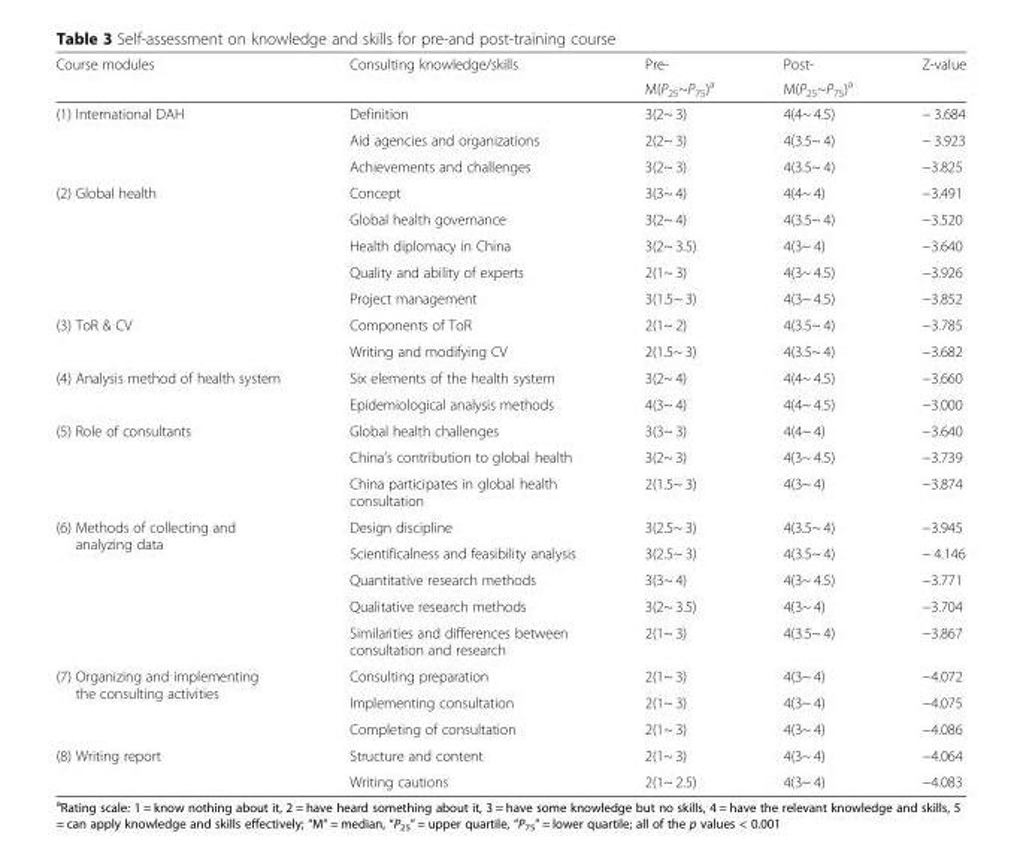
<table><thead><tr><td rowspan="2">Course modules</td><td rowspan="2">Consulting knowledge/skills</td><td rowspan="2">Pre- M(P<sub>25</sub>~P<sub>75</sub>)<sup>a</sup></td><td rowspan="2">Post- M(P<sub>25</sub>~P<sub>75</sub>)<sup>a</sup></td><td rowspan="2">Z-value</td></tr><tr></tr></thead><tbody><tr><td rowspan="3">(1) International DAH</td><td>Definition</td><td>3(2~ 3)</td><td>4(4~ 4.5)</td><td>− 3.684</td></tr><tr><td>Aid agencies and organizations</td><td>2(2~ 3)</td><td>4(3.5~ 4)</td><td>− 3.923</td></tr><tr><td>Achievements and challenges</td><td>3(2~ 3)</td><td>4(3.5~ 4)</td><td>−3.825</td></tr><tr><td rowspan="5">(2) Global health</td><td>Concept</td><td>3(3~ 4)</td><td>4(4~ 4)</td><td>−3.491</td></tr><tr><td>Global health governance</td><td>3(2~ 4)</td><td>4(3.5~ 4)</td><td>−3.520</td></tr><tr><td>Health diplomacy in China</td><td>3(2~ 3.5)</td><td>4(3~ 4)</td><td>−3.640</td></tr><tr><td>Quality and ability of experts</td><td>2(1~ 3)</td><td>4(3~ 4.5)</td><td>−3.926</td></tr><tr><td>Project management</td><td>3(1.5~ 3)</td><td>4(3~ 4.5)</td><td>−3.852</td></tr><tr><td rowspan="2">(3) ToR &amp; CV</td><td>Components of ToR</td><td>2(1~ 2)</td><td>4(3.5~ 4)</td><td>−3.785</td></tr><tr><td>Writing and modifying CV</td><td>2(1.5~ 3)</td><td>4(3.5~ 4)</td><td>−3.682</td></tr><tr><td rowspan="2">(4) Analysis method of health system</td><td>Six elements of the health system</td><td>3(2~ 4)</td><td>4(4~ 4.5)</td><td>−3.660</td></tr><tr><td>Epidemiological analysis methods</td><td>4(3~ 4)</td><td>4(4~ 4.5)</td><td>−3.000</td></tr><tr><td rowspan="3">(5) Role of consultants</td><td>Global health challenges</td><td>3(3~ 3)</td><td>4(4~ 4)</td><td>−3.640</td></tr><tr><td>China’s contribution to global health</td><td>3(2~ 3)</td><td>4(3~ 4.5)</td><td>−3.739</td></tr><tr><td>China participates in global health consultation</td><td>2(1.5~ 3)</td><td>4(3~ 4)</td><td>−3.874</td></tr><tr><td rowspan="5">(6) Methods of collecting and analyzing data</td><td>Design discipline</td><td>3(2.5~ 3)</td><td>4(3.5~ 4)</td><td>−3.945</td></tr><tr><td>Scientificalness and feasibility analysis</td><td>3(2.5~ 3)</td><td>4(3.5~ 4)</td><td>− 4.146</td></tr><tr><td>Quantitative research methods</td><td>3(3~ 4)</td><td>4(3~ 4.5)</td><td>−3.771</td></tr><tr><td>Qualitative research methods</td><td>3(2~ 3.5)</td><td>4(3~ 4)</td><td>−3.704</td></tr><tr><td>Similarities and differences between consultation and research</td><td>2(1~ 3)</td><td>4(3.5~ 4)</td><td>−3.867</td></tr><tr><td rowspan="3">(7) Organizing and implementing the consulting activities</td><td>Consulting preparation</td><td>2(1~ 3)</td><td>4(3~ 4)</td><td>−4.072</td></tr><tr><td>Implementing consultation</td><td>2(1~ 3)</td><td>4(3~ 4)</td><td>−4.075</td></tr><tr><td>Completing of consultation</td><td>2(1~ 3)</td><td>4(3~ 4)</td><td>−4.086</td></tr><tr><td rowspan="2">(8) Writing report</td><td>Structure and content</td><td>2(1~ 3)</td><td>4(3~ 4)</td><td>−4.064</td></tr><tr><td>Writing cautions</td><td>2(1~ 2.5)</td><td>4(3~ 4)</td><td>−4.083</td></tr></tbody></table>